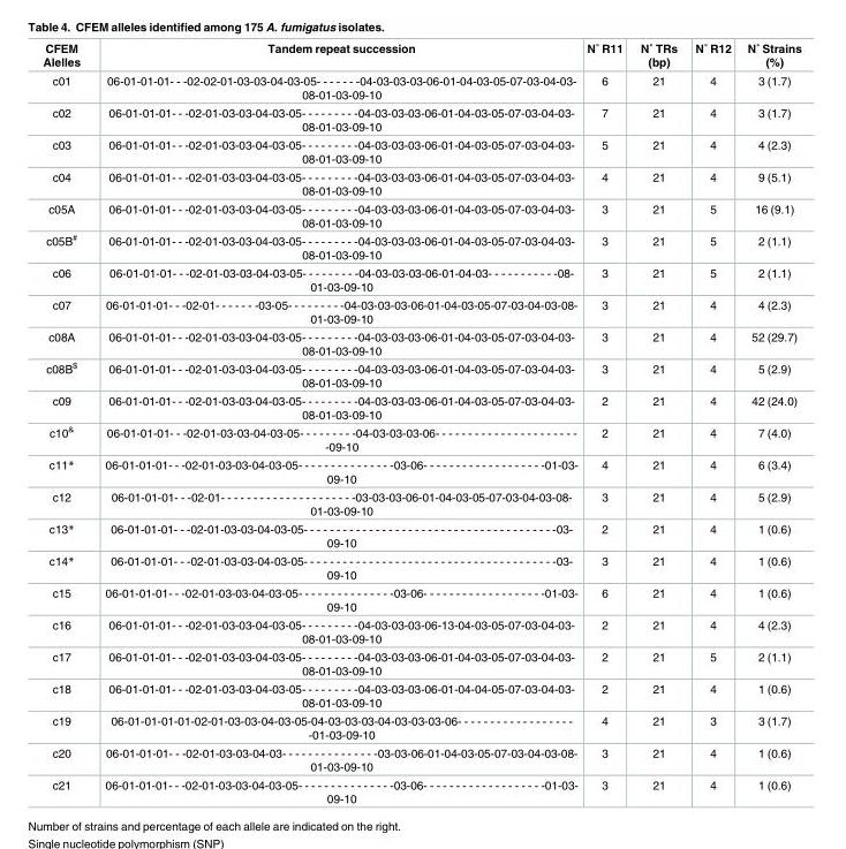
<table><thead><tr><td>CFEM Alelles</td><td>Tandem repeat succession</td><td>N˚ R11</td><td>N˚ TRs (bp)</td><td>N˚ R12</td><td>N˚ Strains (%)</td></tr></thead><tbody><tr><td>c01</td><td>06-01-01-01- - -02-02-01-03-03-04-03-05- - - - - - -04-03-03-03-06-01-04-03-05-07-03-04-03- 08-01-03-09-10</td><td>6</td><td>21</td><td>4</td><td>3 (1.7)</td></tr><tr><td>c02</td><td>06-01-01-01- - -02-01-03-03-04-03-05- - - - - - - - -04-03-03-03-06-01-04-03-05-07-03-04-03- 08-01-03-09-10</td><td>7</td><td>21</td><td>4</td><td>3 (1.7)</td></tr><tr><td>c03</td><td>06-01-01-01- - -02-01-03-03-04-03-05- - - - - - - - -04-03-03-03-06-01-04-03-05-07-03-04-03- 08-01-03-09-10</td><td>5</td><td>21</td><td>4</td><td>4 (2.3)</td></tr><tr><td>c04</td><td>06-01-01-01- - -02-01-03-03-04-03-05- - - - - - - - -04-03-03-03-06-01-04-03-05-07-03-04-03- 08-01-03-09-10</td><td>4</td><td>21</td><td>4</td><td>9 (5.1)</td></tr><tr><td>c05A</td><td>06-01-01-01- - -02-01-03-03-04-03-05- - - - - - - - -04-03-03-03-06-01-04-03-05-07-03-04-03- 08-01-03-09-10</td><td>3</td><td>21</td><td>5</td><td>16 (9.1)</td></tr><tr><td>c05B<sup>#</sup></td><td>06-01-01-01- - -02-01-03-03-04-03-05- - - - - - - - -04-03-03-03-06-01-04-03-05-07-03-04-03- 08-01-03-09-10</td><td>3</td><td>21</td><td>5</td><td>2 (1.1)</td></tr><tr><td>c06</td><td>06-01-01-01- - -02-01-03-03-04-03-05- - - - - - - - -04-03-03-03-06-01-04-03- - - - - - - - - - -08- 01-03-09-10</td><td>3</td><td>21</td><td>5</td><td>2 (1.1)</td></tr><tr><td>c07</td><td>06-01-01-01- - -02-01- - - - - - -03-05- - - - - - - - -04-03-03-03-06-01-04-03-05-07-03-04-03-08- 01-03-09-10</td><td>3</td><td>21</td><td>4</td><td>4 (2.3)</td></tr><tr><td>c08A</td><td>06-01-01-01- - -02-01-03-03-04-03-05- - - - - - - - -04-03-03-03-06-01-04-03-05-07-03-04-03- 08-01-03-09-10</td><td>3</td><td>21</td><td>4</td><td>52 (29.7)</td></tr><tr><td>c08B<sup>$</sup></td><td>06-01-01-01- - -02-01-03-03-04-03-05- - - - - - - - -04-03-03-03-06-01-04-03-05-07-03-04-03- 08-01-03-09-10</td><td>3</td><td>21</td><td>4</td><td>5 (2.9)</td></tr><tr><td>c09</td><td>06-01-01-01- - -02-01-03-03-04-03-05- - - - - - - - -04-03-03-03-06-01-04-03-05-07-03-04-03- 08-01-03-09-10</td><td>2</td><td>21</td><td>4</td><td>42 (24.0)</td></tr><tr><td>c10<sup>&amp;</sup></td><td>06-01-01-01- - -02-01-03-03-04-03-05- - - - - - - - -04-03-03-03-06- - - - - - - - - - - - - - - - - - - - - - -09-10</td><td>2</td><td>21</td><td>4</td><td>7 (4.0)</td></tr><tr><td>c11*</td><td>06-01-01-01- - -02-01-03-03-04-03-05- - - - - - - - - - - - - - -03-06- - - - - - - - - - - - - - - - - - -01-03- 09-10</td><td>4</td><td>21</td><td>4</td><td>6 (3.4)</td></tr><tr><td>c12</td><td>06-01-01-01- - -02-01- - - - - - - - - - - - - - - - - - - - -03-03-03-06-01-04-03-05-07-03-04-03-08- 01-03-09-10</td><td>3</td><td>21</td><td>4</td><td>5 (2.9)</td></tr><tr><td>c13*</td><td>06-01-01-01- - -02-01-03-03-04-03-05- - - - - - - - - - - - - - - - - - - - - - - - - - - - - - - - - - - - - - -03- 09-10</td><td>2</td><td>21</td><td>4</td><td>1 (0.6)</td></tr><tr><td>c14*</td><td>06-01-01-01- - -02-01-03-03-04-03-05- - - - - - - - - - - - - - - - - - - - - - - - - - - - - - - - - - - - - - -03- 09-10</td><td>3</td><td>21</td><td>4</td><td>1 (0.6)</td></tr><tr><td>c15</td><td>06-01-01-01- - -02-01-03-03-04-03-05- - - - - - - - - - - - - - -03-06- - - - - - - - - - - - - - - - - - -01-03- 09-10</td><td>6</td><td>21</td><td>4</td><td>1 (0.6)</td></tr><tr><td>c16</td><td>06-01-01-01- - -02-01-03-03-04-03-05- - - - - - - - -04-03-03-03-06-13-04-03-05-07-03-04-03- 08-01-03-09-10</td><td>2</td><td>21</td><td>4</td><td>4 (2.3)</td></tr><tr><td>c17</td><td>06-01-01-01- - -02-01-03-03-04-03-05- - - - - - - - -04-03-03-03-06-01-04-03-05-07-03-04-03- 08-01-03-09-10</td><td>2</td><td>21</td><td>5</td><td>2 (1.1)</td></tr><tr><td>c18</td><td>06-01-01-01- - -02-01-03-03-04-03-05- - - - - - - - -04-03-03-03-06-01-04-04-05-07-03-04-03- 08-01-03-09-10</td><td>2</td><td>21</td><td>4</td><td>1 (0.6)</td></tr><tr><td>c19</td><td>06-01-01-01-01-02-01-03-03-04-03-05-04-03-03-03-04-03-03-03-06- - - - - - - - - - - - - - - - - - -01-03-09-10</td><td>4</td><td>21</td><td>3</td><td>3 (1.7)</td></tr><tr><td>c20</td><td>06-01-01-01- - -02-01-03-03-04-03- - - - - - - - - - - - - - -03-03-06-01-04-03-05-07-03-04-03-08- 01-03-09-10</td><td>3</td><td>21</td><td>4</td><td>1 (0.6)</td></tr><tr><td>c21</td><td>06-01-01-01- - -02-01-03-03-04-03-05- - - - - - - - - - - - - - -03-06- - - - - - - - - - - - - - - - - - -01-03- 09-10</td><td>3</td><td>21</td><td>4</td><td>1 (0.6)</td></tr></tbody></table>